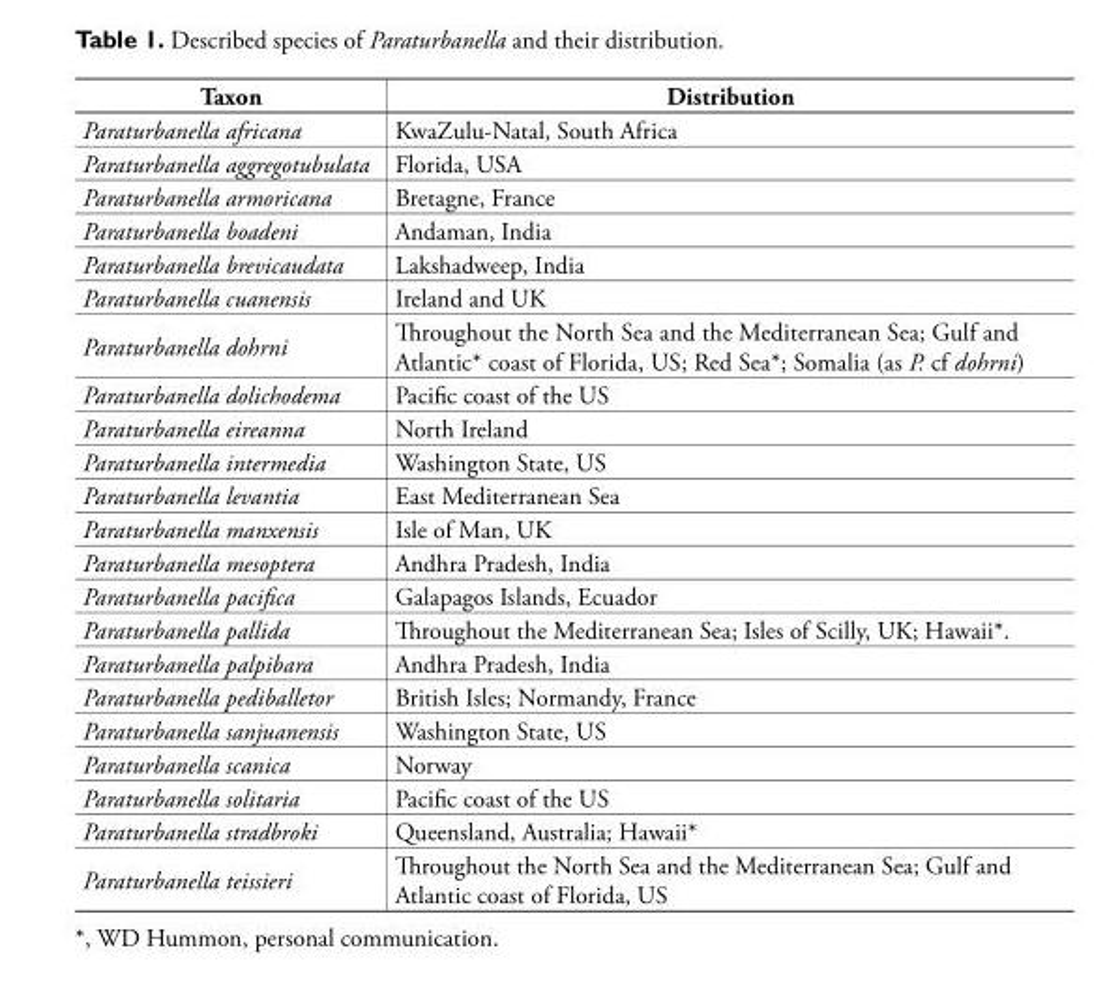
<table><thead><tr><td>Taxon</td><td>Distribution</td></tr></thead><tbody><tr><td>Paraturbanella africana</td><td>KwaZulu-Natal, South Africa</td></tr><tr><td>Paraturbanella aggregotubulata</td><td>Florida, USA</td></tr><tr><td>Paraturbanella armoricana</td><td>Bretagne, France</td></tr><tr><td>Paraturbanella boadeni</td><td>Andaman, India</td></tr><tr><td>Paraturbanella brevicaudata</td><td>Lakshadweep, India</td></tr><tr><td>Paraturbanella cuanensis</td><td>Ireland and UK</td></tr><tr><td>Paraturbanella dohrni</td><td>Throughout the North Sea and the Mediterranean Sea; Gulf and Atlantic* coast of Florida, US; Red Sea*; Somalia (as P. cf dohrni)</td></tr><tr><td>Paraturbanella dolichodema</td><td>Pacific coast of the US</td></tr><tr><td>Paraturbanella eireanna</td><td>North Ireland</td></tr><tr><td>Paraturbanella intermedia</td><td>Washington State, US</td></tr><tr><td>Paraturbanella levantia</td><td>East Mediterranean Sea</td></tr><tr><td>Paraturbanella manxensis</td><td>Isle of Man, UK</td></tr><tr><td>Paraturbanella mesoptera</td><td>Andhra Pradesh, India</td></tr><tr><td>Paraturbanella pacifica</td><td>Galapagos Islands, Ecuador</td></tr><tr><td>Paraturbanella pallida</td><td>Throughout the Mediterranean Sea; Isles of Scilly, UK; Hawaii*.</td></tr><tr><td>Paraturbanella palpibara</td><td>Andhra Pradesh, India</td></tr><tr><td>Paraturbanella pediballetor</td><td>British Isles; Normandy, France</td></tr><tr><td>Paraturbanella sanjuanensis</td><td>Washington State, US</td></tr><tr><td>Paraturbanella scanica</td><td>Norway</td></tr><tr><td>Paraturbanella solitaria</td><td>Pacific coast of the US</td></tr><tr><td>Paraturbanella stradbroki</td><td>Queensland, Australia; Hawaii*</td></tr><tr><td>Paraturbanella teissieri</td><td>Throughout the North Sea and the Mediterranean Sea; Gulf and Atlantic coast of Florida, US</td></tr></tbody></table>